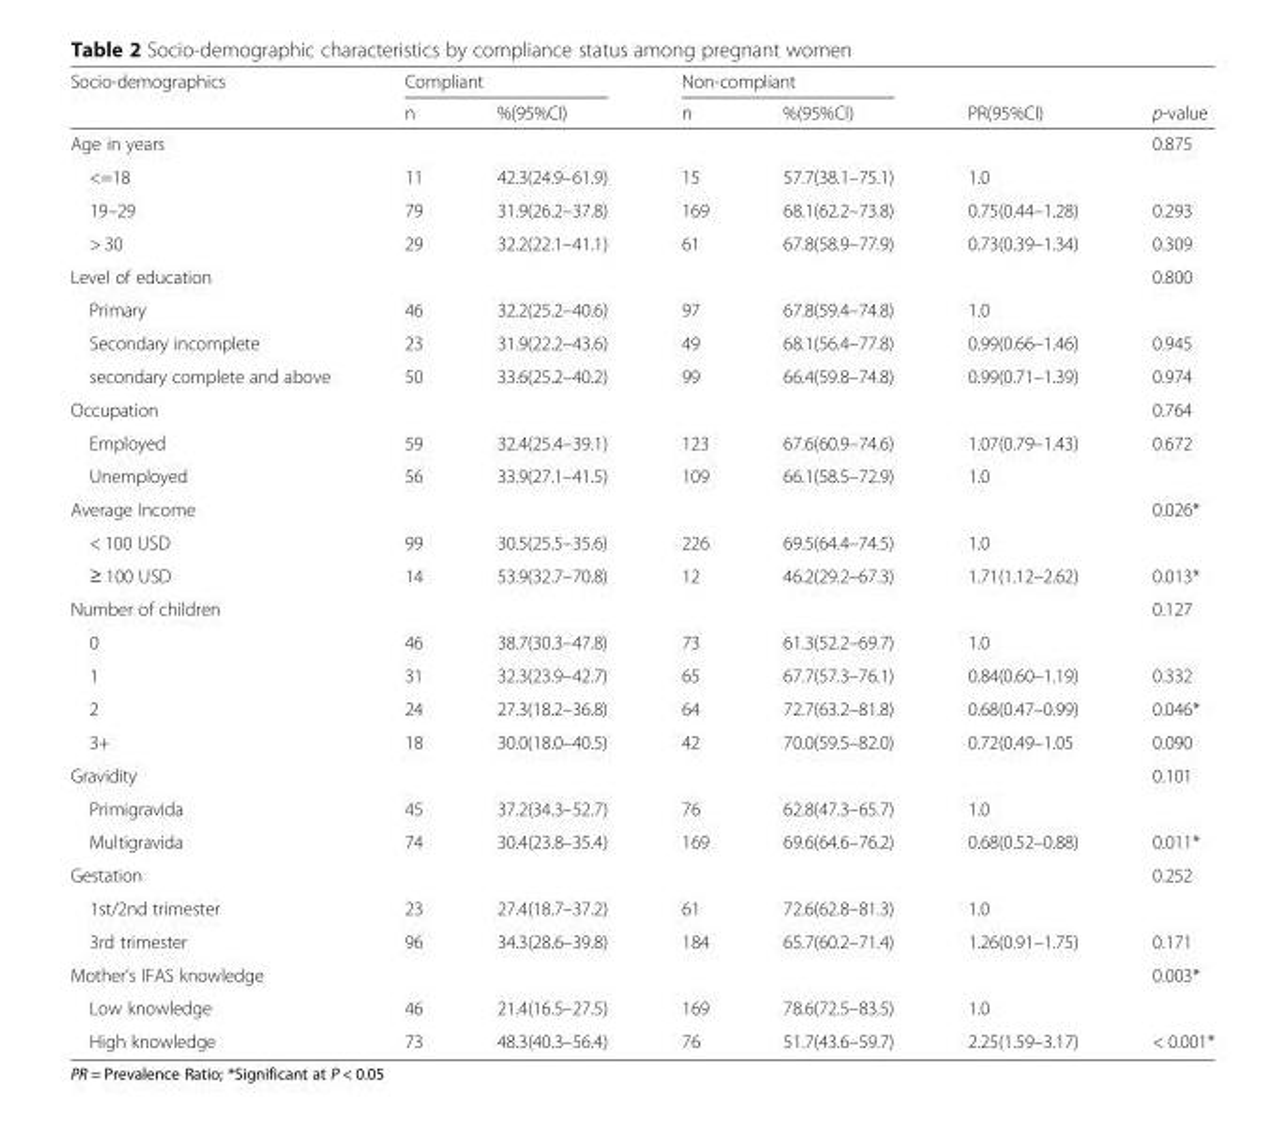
<table><thead><tr><td rowspan="2">Socio-demographics</td><td colspan="2">Compliant</td><td colspan="2">Non-compliant</td><td rowspan="2">PR(95%CI)</td><td rowspan="2">p-value</td></tr><tr><td>n</td><td>%(95%CI)</td><td>n</td><td>%(95%CI)</td></tr></thead><tbody><tr><td>Age in years</td><td></td><td></td><td></td><td></td><td></td><td>0.875</td></tr><tr><td>&lt;=18</td><td>11</td><td>42.3(24.9–61.9)</td><td>15</td><td>57.7(38.1–75.1)</td><td>1.0</td><td></td></tr><tr><td>19–29</td><td>79</td><td>31.9(26.2–37.8)</td><td>169</td><td>68.1(62.2–73.8)</td><td>0.75(0.44–1.28)</td><td>0.293</td></tr><tr><td>&gt; 30</td><td>29</td><td>32.2(22.1–41.1)</td><td>61</td><td>67.8(58.9–77.9)</td><td>0.73(0.39–1.34)</td><td>0.309</td></tr><tr><td>Level of education</td><td></td><td></td><td></td><td></td><td></td><td>0.800</td></tr><tr><td>Primary</td><td>46</td><td>32.2(25.2–40.6)</td><td>97</td><td>67.8(59.4–74.8)</td><td>1.0</td><td></td></tr><tr><td>Secondary incomplete</td><td>23</td><td>31.9(22.2–43.6)</td><td>49</td><td>68.1(56.4–77.8)</td><td>0.99(0.66–1.46)</td><td>0.945</td></tr><tr><td>secondary complete and above</td><td>50</td><td>33.6(25.2–40.2)</td><td>99</td><td>66.4(59.8–74.8)</td><td>0.99(0.71–1.39)</td><td>0.974</td></tr><tr><td>Occupation</td><td></td><td></td><td></td><td></td><td></td><td>0.764</td></tr><tr><td>Employed</td><td>59</td><td>32.4(25.4–39.1)</td><td>123</td><td>67.6(60.9–74.6)</td><td>1.07(0.79–1.43)</td><td>0.672</td></tr><tr><td>Unemployed</td><td>56</td><td>33.9(27.1–41.5)</td><td>109</td><td>66.1(58.5–72.9)</td><td>1.0</td><td></td></tr><tr><td>Average Income</td><td></td><td></td><td></td><td></td><td></td><td>0.026*</td></tr><tr><td>&lt; 100 USD</td><td>99</td><td>30.5(25.5–35.6)</td><td>226</td><td>69.5(64.4–74.5)</td><td>1.0</td><td></td></tr><tr><td>≥ 100 USD</td><td>14</td><td>53.9(32.7–70.8)</td><td>12</td><td>46.2(29.2–67.3)</td><td>1.71(1.12–2.62)</td><td>0.013*</td></tr><tr><td>Number of children</td><td></td><td></td><td></td><td></td><td></td><td>0.127</td></tr><tr><td>0</td><td>46</td><td>38.7(30.3–47.8)</td><td>73</td><td>61.3(52.2–69.7)</td><td>1.0</td><td></td></tr><tr><td>1</td><td>31</td><td>32.3(23.9–42.7)</td><td>65</td><td>67.7(57.3–76.1)</td><td>0.84(0.60–1.19)</td><td>0.332</td></tr><tr><td>2</td><td>24</td><td>27.3(18.2–36.8)</td><td>64</td><td>72.7(63.2–81.8)</td><td>0.68(0.47–0.99)</td><td>0.046*</td></tr><tr><td>3+</td><td>18</td><td>30.0(18.0–40.5)</td><td>42</td><td>70.0(59.5–82.0)</td><td>0.72(0.49–1.05</td><td>0.090</td></tr><tr><td>Gravidity</td><td></td><td></td><td></td><td></td><td></td><td>0.101</td></tr><tr><td>Primigravida</td><td>45</td><td>37.2(34.3–52.7)</td><td>76</td><td>62.8(47.3–65.7)</td><td>1.0</td><td></td></tr><tr><td>Multigravida</td><td>74</td><td>30.4(23.8–35.4)</td><td>169</td><td>69.6(64.6–76.2)</td><td>0.68(0.52–0.88)</td><td>0.011*</td></tr><tr><td>Gestation</td><td></td><td></td><td></td><td></td><td></td><td>0.252</td></tr><tr><td>1st/2nd trimester</td><td>23</td><td>27.4(18.7–37.2)</td><td>61</td><td>72.6(62.8–81.3)</td><td>1.0</td><td></td></tr><tr><td>3rd trimester</td><td>96</td><td>34.3(28.6–39.8)</td><td>184</td><td>65.7(60.2–71.4)</td><td>1.26(0.91–1.75)</td><td>0.171</td></tr><tr><td>Mother’s IFAS knowledge</td><td></td><td></td><td></td><td></td><td></td><td>0.003*</td></tr><tr><td>Low knowledge</td><td>46</td><td>21.4(16.5–27.5)</td><td>169</td><td>78.6(72.5–83.5)</td><td>1.0</td><td></td></tr><tr><td>High knowledge</td><td>73</td><td>48.3(40.3–56.4)</td><td>76</td><td>51.7(43.6–59.7)</td><td>2.25(1.59–3.17)</td><td>&lt; 0.001*</td></tr></tbody></table>